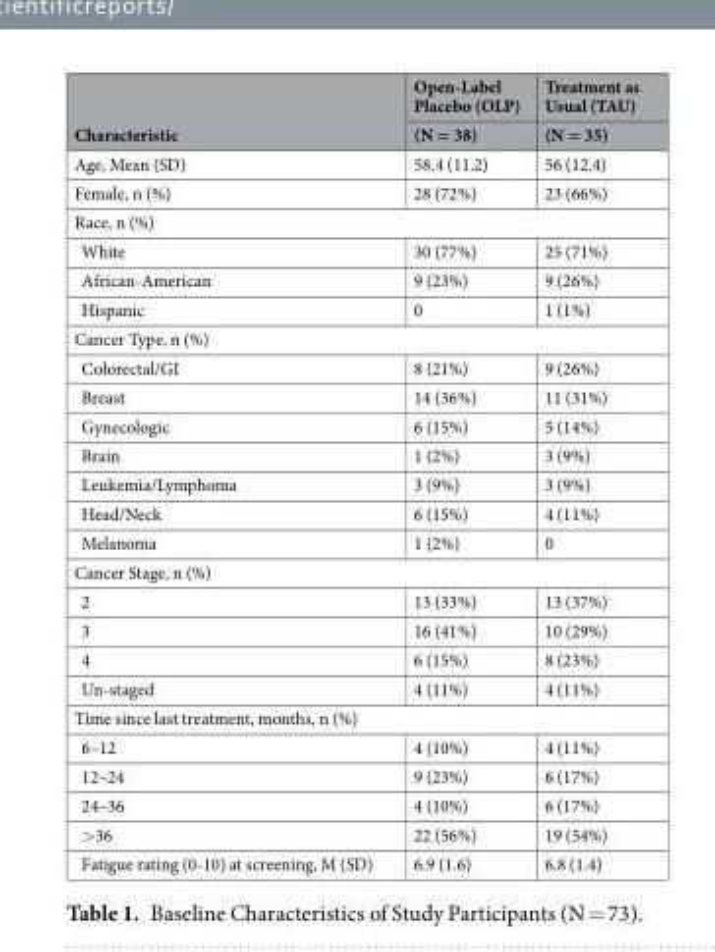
<table><thead><tr><td rowspan="2">Characteristic</td><td rowspan="2">Open-Label Placebo (OLP) (N = 38)</td><td rowspan="2">Treatment as Usual (TAU) (N = 35)</td></tr><tr></tr></thead><tbody><tr><td>Age, Mean (SD)</td><td>58.4 (11.2)</td><td>56 (12.4)</td></tr><tr><td>Female, n (%)</td><td>28 (72%)</td><td>23 (66%)</td></tr><tr><td colspan="3">Race, n (%)</td></tr><tr><td>White</td><td>30 (77%)</td><td>25 (71%)</td></tr><tr><td>African-American</td><td>9 (23%)</td><td>9 (26%)</td></tr><tr><td>Hispanic</td><td>0</td><td>1 (1%)</td></tr><tr><td colspan="3">Cancer Type, n (%)</td></tr><tr><td>Colorectal/GI</td><td>8 (21%)</td><td>9 (26%)</td></tr><tr><td>Breast</td><td>14 (36%)</td><td>11 (31%)</td></tr><tr><td>Gynecologic</td><td>6 (15%)</td><td>5 (14%)</td></tr><tr><td>Brain</td><td>1 (2%)</td><td>3 (9%)</td></tr><tr><td>Leukemia/Lymphoma</td><td>3 (9%)</td><td>3 (9%)</td></tr><tr><td>Head/Neck</td><td>6 (15%)</td><td>4 (11%)</td></tr><tr><td>Melanoma</td><td>1 (2%)</td><td>0</td></tr><tr><td colspan="3">Cancer Stage, n (%)</td></tr><tr><td>2</td><td>13 (33%)</td><td>13 (37%)</td></tr><tr><td>3</td><td>16 (41%)</td><td>10 (29%)</td></tr><tr><td>4</td><td>6 (15%)</td><td>8 (23%)</td></tr><tr><td>Un-staged</td><td>4 (11%)</td><td>4 (11%)</td></tr><tr><td colspan="3">Time since last treatment, months, n (%)</td></tr><tr><td>6–12</td><td>4 (10%)</td><td>4 (11%)</td></tr><tr><td>12–24</td><td>9 (23%)</td><td>6 (17%)</td></tr><tr><td>24–36</td><td>4 (10%)</td><td>6 (17%)</td></tr><tr><td>&gt;36</td><td>22 (56%)</td><td>19 (54%)</td></tr><tr><td>Fatigue rating (0-10) at screening, M (SD)</td><td>6.9 (1.6)</td><td>6.8 (1.4)</td></tr></tbody></table>